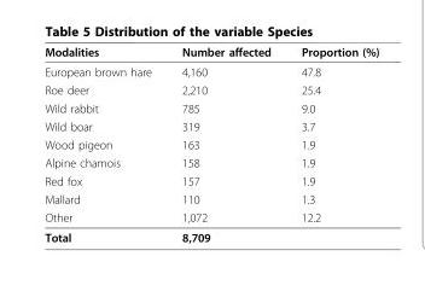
<table><thead><tr><td>Modalities</td><td>Number affected</td><td>Proportion (%)</td></tr></thead><tbody><tr><td>European brown hare</td><td>4,160</td><td>47.8</td></tr><tr><td>Roe deer</td><td>2,210</td><td>25.4</td></tr><tr><td>Wild rabbit</td><td>785</td><td>9.0</td></tr><tr><td>Wild boar</td><td>319</td><td>3.7</td></tr><tr><td>Wood pigeon</td><td>163</td><td>1.9</td></tr><tr><td>Alpine chamois</td><td>158</td><td>1.9</td></tr><tr><td>Red fox</td><td>157</td><td>1.9</td></tr><tr><td>Mallard</td><td>110</td><td>1.3</td></tr><tr><td>Other</td><td>1,072</td><td>12.2</td></tr><tr><td>Total</td><td>8,709</td><td></td></tr></tbody></table>